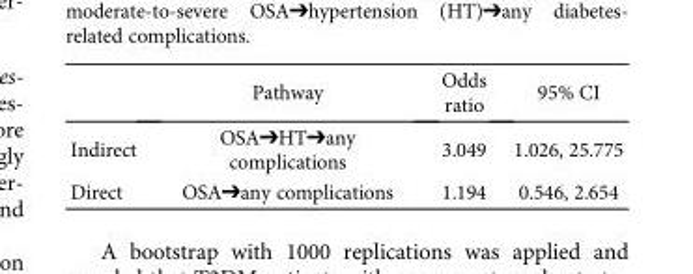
<table><thead><tr><td></td><td>Pathway</td><td>Odds ratio</td><td>95% CI</td></tr></thead><tbody><tr><td>Indirect</td><td>OSA➔HT➔any complications</td><td>3.049</td><td>1.026, 25.775</td></tr><tr><td>Direct</td><td>OSA➔any complications</td><td>1.194</td><td>0.546, 2.654</td></tr></tbody></table>